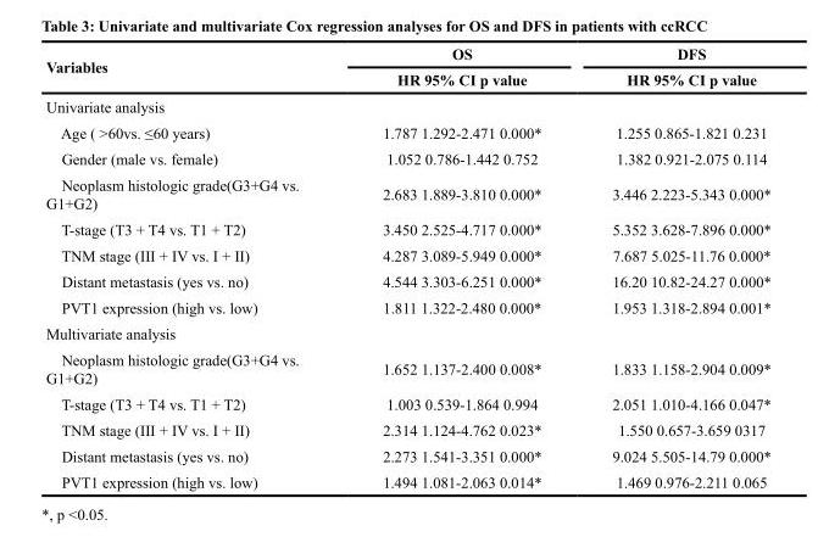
<table><thead><tr><td rowspan="2">Variables</td><td rowspan="2">OS HR 95% CI p value</td><td rowspan="2">DFS HR 95% CI p value</td></tr><tr></tr></thead><tbody><tr><td colspan="3">Univariate analysis</td></tr><tr><td>Age ( &gt;60vs. ≤60 years)</td><td>1.787 1.292-2.471 0.000*</td><td>1.255 0.865-1.821 0.231</td></tr><tr><td>Gender (male vs. female)</td><td>1.052 0.786-1.442 0.752</td><td>1.382 0.921-2.075 0.114</td></tr><tr><td>Neoplasm histologic grade(G3+G4 vs. G1+G2)</td><td>2.683 1.889-3.810 0.000*</td><td>3.446 2.223-5.343 0.000*</td></tr><tr><td>T-stage (T3 + T4 vs. T1 + T2)</td><td>3.450 2.525-4.717 0.000*</td><td>5.352 3.628-7.896 0.000*</td></tr><tr><td>TNM stage (III + IV vs. I + II)</td><td>4.287 3.089-5.949 0.000*</td><td>7.687 5.025-11.76 0.000*</td></tr><tr><td>Distant metastasis (yes vs. no)</td><td>4.544 3.303-6.251 0.000*</td><td>16.20 10.82-24.27 0.000*</td></tr><tr><td>PVT1 expression (high vs. low)</td><td>1.811 1.322-2.480 0.000*</td><td>1.953 1.318-2.894 0.001*</td></tr><tr><td colspan="3">Multivariate analysis</td></tr><tr><td>Neoplasm histologic grade(G3+G4 vs. G1+G2)</td><td>1.652 1.137-2.400 0.008*</td><td>1.833 1.158-2.904 0.009*</td></tr><tr><td>T-stage (T3 + T4 vs. T1 + T2)</td><td>1.003 0.539-1.864 0.994</td><td>2.051 1.010-4.166 0.047*</td></tr><tr><td>TNM stage (III + IV vs. I + II)</td><td>2.314 1.124-4.762 0.023*</td><td>1.550 0.657-3.659 0317</td></tr><tr><td>Distant metastasis (yes vs. no)</td><td>2.273 1.541-3.351 0.000*</td><td>9.024 5.505-14.79 0.000*</td></tr><tr><td>PVT1 expression (high vs. low)</td><td>1.494 1.081-2.063 0.014*</td><td>1.469 0.976-2.211 0.065</td></tr></tbody></table>